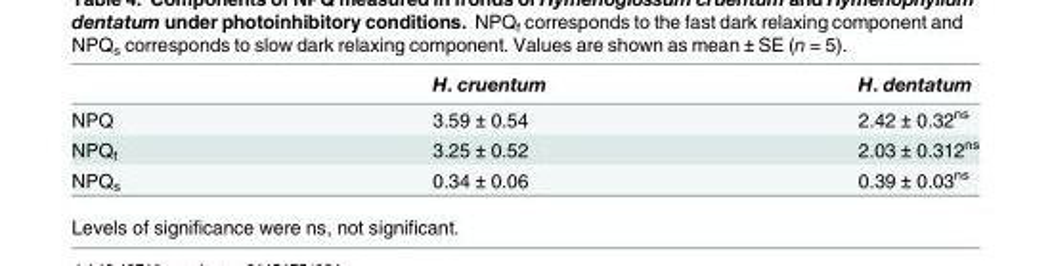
<table><thead><tr><td></td><td>H. cruentum</td><td>H. dentatum</td></tr></thead><tbody><tr><td>NPQ</td><td>3.59 ± 0.54</td><td>2.42 ± 0.32<sup>ns</sup></td></tr><tr><td>NPQ<sub>f</sub></td><td>3.25 ± 0.52</td><td>2.03 ± 0.312<sup>ns</sup></td></tr><tr><td>NPQ<sub>s</sub></td><td>0.34 ± 0.06</td><td>0.39 ± 0.03<sup>ns</sup></td></tr></tbody></table>